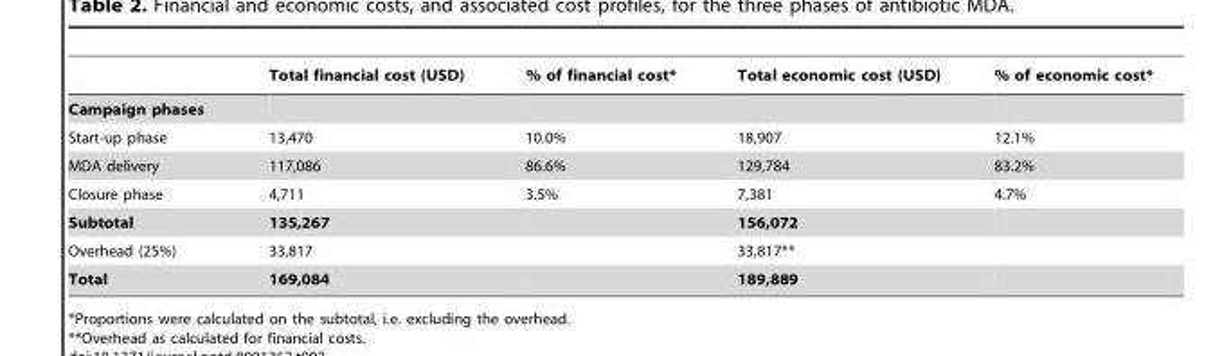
<table><thead><tr><td></td><td>Total financial cost (USD)</td><td>% of financial cost*</td><td>Total economic cost (USD)</td><td>% of economic cost*</td></tr></thead><tbody><tr><td colspan="5">Campaign phases</td></tr><tr><td>Start-up phase</td><td>13,470</td><td>10.0%</td><td>18,907</td><td>12.1%</td></tr><tr><td>MDA delivery</td><td>117,086</td><td>86.6%</td><td>129,784</td><td>83.2%</td></tr><tr><td>Closure phase</td><td>4,711</td><td>3.5%</td><td>7,381</td><td>4.7%</td></tr><tr><td>Subtotal</td><td>135,267</td><td></td><td>156,072</td><td></td></tr><tr><td>Overhead (25%)</td><td>33,817</td><td></td><td>33,817**</td><td></td></tr><tr><td>Total</td><td>169,084</td><td></td><td>189,889</td><td></td></tr></tbody></table>